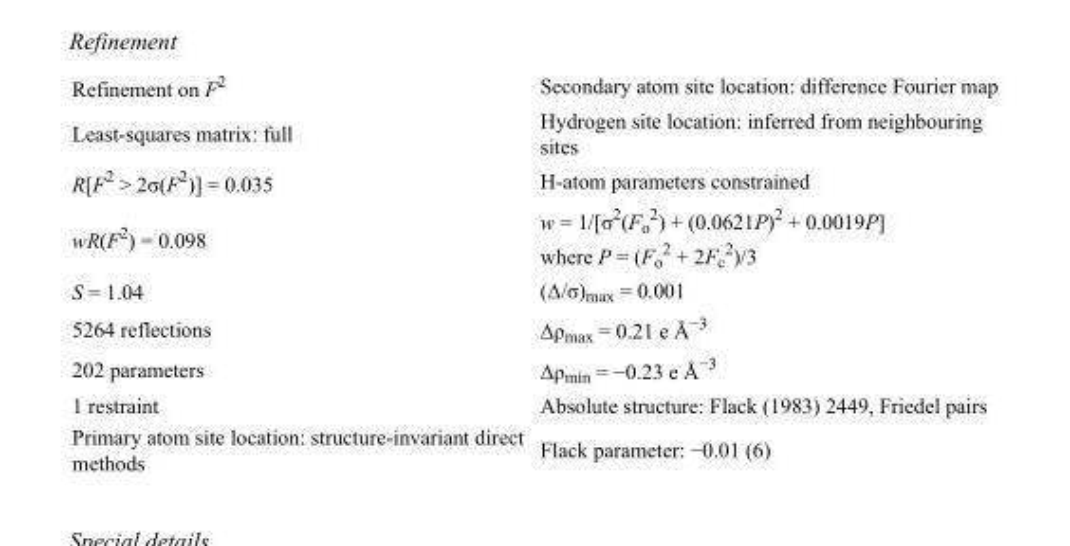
<table><tbody><tr><td>Refinement on F<sup>2</sup></td><td>Secondary atom site location: difference Fourier map</td></tr><tr><td>Least-squares matrix: full</td><td>Hydrogen site location: inferred from neighbouring sites</td></tr><tr><td>R[F<sup>2</sup> &gt; 2σ(F<sup>2</sup>)] = 0.035</td><td>H-atom parameters constrained</td></tr><tr><td>wR(F<sup>2</sup>) = 0.098</td><td>w = 1/[σ<sup>2</sup>(F<sub>o</sub> <sup>2</sup>) + (0.0621P)<sup>2</sup> + 0.0019P] where P = (F<sub>o</sub> <sup>2</sup> + 2F<sub>c</sub> <sup>2</sup>)/3</td></tr><tr><td>S = 1.04</td><td>(Δ/σ)<sub>max</sub> = 0.001</td></tr><tr><td>5264 reflections</td><td>Δρ<sub>max</sub> = 0.21 e Å<sup>−3</sup></td></tr><tr><td>202 parameters</td><td>Δρ<sub>min</sub> = −0.23 e Å<sup>−3</sup></td></tr><tr><td>1 restraint</td><td>Absolute structure: Flack (1983) 2449, Friedel pairs</td></tr><tr><td>Primary atom site location: structure-invariant direct methods</td><td>Flack parameter: −0.01 (6)</td></tr></tbody></table>